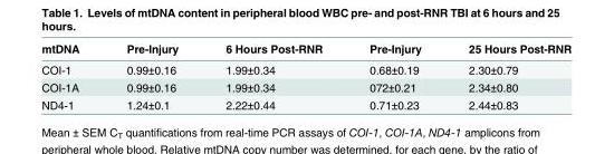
<table><thead><tr><td>mtDNA</td><td>Pre-Injury</td><td>6 Hours Post-RNR</td><td>Pre-Injury</td><td>25 Hours Post-RNR</td></tr></thead><tbody><tr><td>COI-1</td><td>0.99±0.16</td><td>1.99±0.34</td><td>0.68±0.19</td><td>2.30±0.79</td></tr><tr><td>COI-1A</td><td>0.99±0.16</td><td>1.99±0.34</td><td>072±0.21</td><td>2.34±0.80</td></tr><tr><td>ND4-1</td><td>1.24±0.1</td><td>2.22±0.44</td><td>0.71±0.23</td><td>2.44±0.83</td></tr></tbody></table>